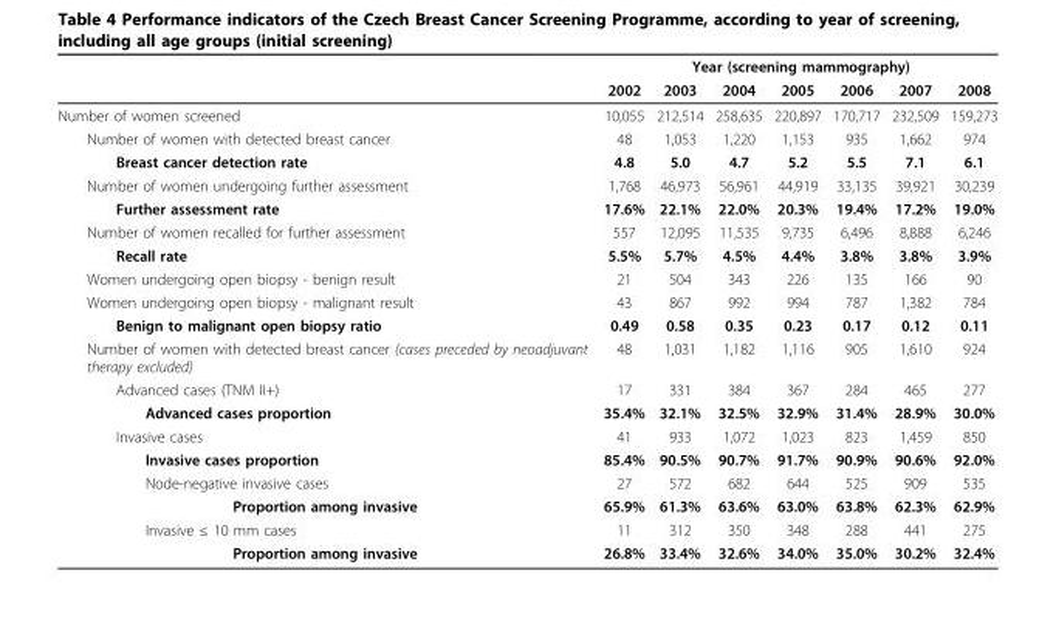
<table><thead><tr><td rowspan="2"></td><td colspan="7">Year (screening mammography)</td></tr><tr><td>2002</td><td>2003</td><td>2004</td><td>2005</td><td>2006</td><td>2007</td><td>2008</td></tr></thead><tbody><tr><td>Number of women screened</td><td>10,055</td><td>212,514</td><td>258,635</td><td>220,897</td><td>170,717</td><td>232,509</td><td>159,273</td></tr><tr><td>Number of women with detected breast cancer</td><td>48</td><td>1,053</td><td>1,220</td><td>1,153</td><td>935</td><td>1,662</td><td>974</td></tr><tr><td>Breast cancer detection rate</td><td>4.8</td><td>5.0</td><td>4.7</td><td>5.2</td><td>5.5</td><td>7.1</td><td>6.1</td></tr><tr><td>Number of women undergoing further assessment</td><td>1,768</td><td>46,973</td><td>56,961</td><td>44,919</td><td>33,135</td><td>39,921</td><td>30,239</td></tr><tr><td>Further assessment rate</td><td>17.6%</td><td>22.1%</td><td>22.0%</td><td>20.3%</td><td>19.4%</td><td>17.2%</td><td>19.0%</td></tr><tr><td>Number of women recalled for further assessment</td><td>557</td><td>12,095</td><td>11,535</td><td>9,735</td><td>6,496</td><td>8,888</td><td>6,246</td></tr><tr><td>Recall rate</td><td>5.5%</td><td>5.7%</td><td>4.5%</td><td>4.4%</td><td>3.8%</td><td>3.8%</td><td>3.9%</td></tr><tr><td>Women undergoing open biopsy - benign result</td><td>21</td><td>504</td><td>343</td><td>226</td><td>135</td><td>166</td><td>90</td></tr><tr><td>Women undergoing open biopsy - malignant result</td><td>43</td><td>867</td><td>992</td><td>994</td><td>787</td><td>1,382</td><td>784</td></tr><tr><td>Benign to malignant open biopsy ratio</td><td>0.49</td><td>0.58</td><td>0.35</td><td>0.23</td><td>0.17</td><td>0.12</td><td>0.11</td></tr><tr><td>Number of women with detected breast cancer (cases preceded by neoadjuvant therapy excluded)</td><td>48</td><td>1,031</td><td>1,182</td><td>1,116</td><td>905</td><td>1,610</td><td>924</td></tr><tr><td>Advanced cases (TNM II+)</td><td>17</td><td>331</td><td>384</td><td>367</td><td>284</td><td>465</td><td>277</td></tr><tr><td>Advanced cases proportion</td><td>35.4%</td><td>32.1%</td><td>32.5%</td><td>32.9%</td><td>31.4%</td><td>28.9%</td><td>30.0%</td></tr><tr><td>Invasive cases</td><td>41</td><td>933</td><td>1,072</td><td>1,023</td><td>823</td><td>1,459</td><td>850</td></tr><tr><td>Invasive cases proportion</td><td>85.4%</td><td>90.5%</td><td>90.7%</td><td>91.7%</td><td>90.9%</td><td>90.6%</td><td>92.0%</td></tr><tr><td>Node-negative invasive cases</td><td>27</td><td>572</td><td>682</td><td>644</td><td>525</td><td>909</td><td>535</td></tr><tr><td>Proportion among invasive</td><td>65.9%</td><td>61.3%</td><td>63.6%</td><td>63.0%</td><td>63.8%</td><td>62.3%</td><td>62.9%</td></tr><tr><td>Invasive ≤ 10 mm cases</td><td>11</td><td>312</td><td>350</td><td>348</td><td>288</td><td>441</td><td>275</td></tr><tr><td>Proportion among invasive</td><td>26.8%</td><td>33.4%</td><td>32.6%</td><td>34.0%</td><td>35.0%</td><td>30.2%</td><td>32.4%</td></tr></tbody></table>